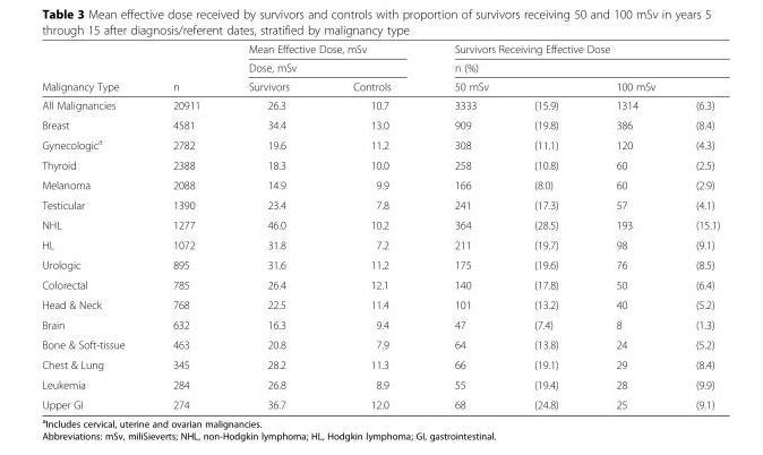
<table><thead><tr><td rowspan="4">Malignancy Type All Malignancies</td><td rowspan="4">n 20911</td><td rowspan="2" colspan="2">Mean Effective Dose, mSv Dose, mSv</td><td rowspan="2" colspan="4">Survivors Receiving Effective Dose n (%)</td></tr><tr></tr><tr><td rowspan="2">Survivors 26.3</td><td rowspan="2">Controls 10.7</td><td colspan="2">50 mSv</td><td colspan="2">100 mSv</td></tr><tr><td>3333</td><td>(15.9)</td><td>1314</td><td>(6.3)</td></tr></thead><tbody><tr><td>Breast</td><td>4581</td><td>34.4</td><td>13.0</td><td>909</td><td>(19.8)</td><td>386</td><td>(8.4)</td></tr><tr><td>Gynecologic<sup>a</sup></td><td>2782</td><td>19.6</td><td>11.2</td><td>308</td><td>(11.1)</td><td>120</td><td>(4.3)</td></tr><tr><td>Thyroid</td><td>2388</td><td>18.3</td><td>10.0</td><td>258</td><td>(10.8)</td><td>60</td><td>(2.5)</td></tr><tr><td>Melanoma</td><td>2088</td><td>14.9</td><td>9.9</td><td>166</td><td>(8.0)</td><td>60</td><td>(2.9)</td></tr><tr><td>Testicular</td><td>1390</td><td>23.4</td><td>7.8</td><td>241</td><td>(17.3)</td><td>57</td><td>(4.1)</td></tr><tr><td>NHL</td><td>1277</td><td>46.0</td><td>10.2</td><td>364</td><td>(28.5)</td><td>193</td><td>(15.1)</td></tr><tr><td>HL</td><td>1072</td><td>31.8</td><td>7.2</td><td>211</td><td>(19.7)</td><td>98</td><td>(9.1)</td></tr><tr><td>Urologic</td><td>895</td><td>31.6</td><td>11.2</td><td>175</td><td>(19.6)</td><td>76</td><td>(8.5)</td></tr><tr><td>Colorectal</td><td>785</td><td>26.4</td><td>12.1</td><td>140</td><td>(17.8)</td><td>50</td><td>(6.4)</td></tr><tr><td>Head &amp; Neck</td><td>768</td><td>22.5</td><td>11.4</td><td>101</td><td>(13.2)</td><td>40</td><td>(5.2)</td></tr><tr><td>Brain</td><td>632</td><td>16.3</td><td>9.4</td><td>47</td><td>(7.4)</td><td>8</td><td>(1.3)</td></tr><tr><td>Bone &amp; Soft-tissue</td><td>463</td><td>20.8</td><td>7.9</td><td>64</td><td>(13.8)</td><td>24</td><td>(5.2)</td></tr><tr><td>Chest &amp; Lung</td><td>345</td><td>28.2</td><td>11.3</td><td>66</td><td>(19.1)</td><td>29</td><td>(8.4)</td></tr><tr><td>Leukemia</td><td>284</td><td>26.8</td><td>8.9</td><td>55</td><td>(19.4)</td><td>28</td><td>(9.9)</td></tr><tr><td>Upper GI</td><td>274</td><td>36.7</td><td>12.0</td><td>68</td><td>(24.8)</td><td>25</td><td>(9.1)</td></tr></tbody></table>